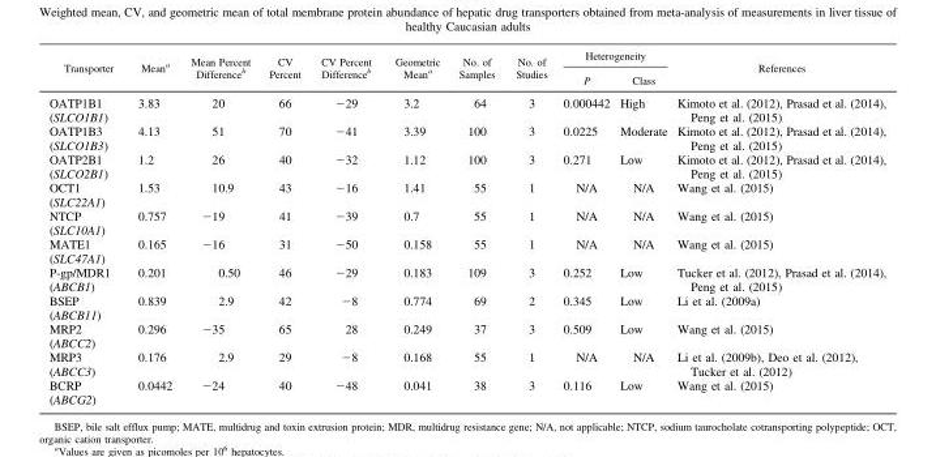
<table><thead><tr><td rowspan="2">Transporter</td><td rowspan="2">Mean<sup>a</sup></td><td rowspan="2">Mean Percent Difference<sup>b</sup></td><td rowspan="2">CV Percent</td><td rowspan="2">CV Percent Difference<sup>b</sup></td><td rowspan="2">Geometric Mean<sup>a</sup></td><td rowspan="2">No. of Samples</td><td rowspan="2">No. of Studies</td><td colspan="2">Heterogeneity</td><td rowspan="2">References</td></tr><tr><td>P</td><td>Class</td></tr></thead><tbody><tr><td>OATP1B1 (SLCO1B1)</td><td>3.83</td><td>20</td><td>66</td><td>−29</td><td>3.2</td><td>64</td><td>3</td><td>0.000442</td><td>High</td><td>Kimoto et al. (2012), Prasad et al. (2014), Peng et al. (2015)</td></tr><tr><td>OATP1B3 (SLCO1B3)</td><td>4.13</td><td>51</td><td>70</td><td>−41</td><td>3.39</td><td>100</td><td>3</td><td>0.0225</td><td>Moderate</td><td>Kimoto et al. (2012), Prasad et al. (2014), Peng et al. (2015)</td></tr><tr><td>OATP2B1 (SLCO2B1)</td><td>1.2</td><td>26</td><td>40</td><td>−32</td><td>1.12</td><td>100</td><td>3</td><td>0.271</td><td>Low</td><td>Kimoto et al. (2012), Prasad et al. (2014), Peng et al. (2015)</td></tr><tr><td>OCT1 (SLC22A1)</td><td>1.53</td><td>10.9</td><td>43</td><td>−16</td><td>1.41</td><td>55</td><td>1</td><td>N/A</td><td>N/A</td><td>Wang et al. (2015)</td></tr><tr><td>NTCP (SLC10A1)</td><td>0.757</td><td>−19</td><td>41</td><td>−39</td><td>0.7</td><td>55</td><td>1</td><td>N/A</td><td>N/A</td><td>Wang et al. (2015)</td></tr><tr><td>MATE1 (SLC47A1)</td><td>0.165</td><td>−16</td><td>31</td><td>−50</td><td>0.158</td><td>55</td><td>1</td><td>N/A</td><td>N/A</td><td>Wang et al. (2015)</td></tr><tr><td>P-gp/MDR1 (ABCB1)</td><td>0.201</td><td>0.50</td><td>46</td><td>−29</td><td>0.183</td><td>109</td><td>3</td><td>0.252</td><td>Low</td><td>Tucker et al. (2012), Prasad et al. (2014), Peng et al. (2015)</td></tr><tr><td>BSEP (ABCB11)</td><td>0.839</td><td>2.9</td><td>42</td><td>−8</td><td>0.774</td><td>69</td><td>2</td><td>0.345</td><td>Low</td><td>Li et al. (2009a)</td></tr><tr><td>MRP2 (ABCC2)</td><td>0.296</td><td>−35</td><td>65</td><td>28</td><td>0.249</td><td>37</td><td>3</td><td>0.509</td><td>Low</td><td>Wang et al. (2015)</td></tr><tr><td>MRP3 (ABCC3)</td><td>0.176</td><td>2.9</td><td>29</td><td>−8</td><td>0.168</td><td>55</td><td>1</td><td>N/A</td><td>N/A</td><td>Li et al. (2009b), Deo et al. (2012), Tucker et al. (2012)</td></tr><tr><td>BCRP (ABCG2)</td><td>0.0442</td><td>−24</td><td>40</td><td>−48</td><td>0.041</td><td>38</td><td>3</td><td>0.116</td><td>Low</td><td>Wang et al. (2015)</td></tr></tbody></table>